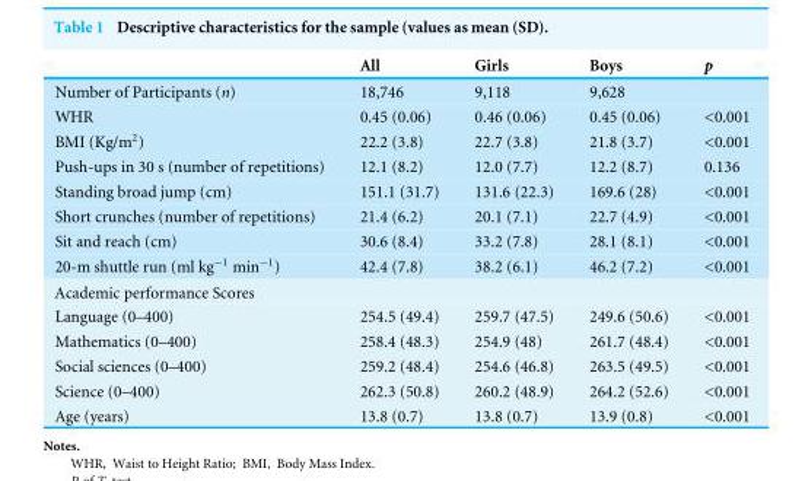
<table><thead><tr><td></td><td>All</td><td>Girls</td><td>Boys</td><td>p</td></tr></thead><tbody><tr><td>Number of Participants (n)</td><td>18,746</td><td>9,118</td><td>9,628</td><td></td></tr><tr><td>WHR</td><td>0.45 (0.06)</td><td>0.46 (0.06)</td><td>0.45 (0.06)</td><td>&lt;0.001</td></tr><tr><td>BMI (Kg/m<sup>2</sup>)</td><td>22.2 (3.8)</td><td>22.7 (3.8)</td><td>21.8 (3.7)</td><td>&lt;0.001</td></tr><tr><td>Push-ups in 30 s (number of repetitions)</td><td>12.1 (8.2)</td><td>12.0 (7.7)</td><td>12.2 (8.7)</td><td>0.136</td></tr><tr><td>Standing broad jump (cm)</td><td>151.1 (31.7)</td><td>131.6 (22.3)</td><td>169.6 (28)</td><td>&lt;0.001</td></tr><tr><td>Short crunches (number of repetitions)</td><td>21.4 (6.2)</td><td>20.1 (7.1)</td><td>22.7 (4.9)</td><td>&lt;0.001</td></tr><tr><td>Sit and reach (cm)</td><td>30.6 (8.4)</td><td>33.2 (7.8)</td><td>28.1 (8.1)</td><td>&lt;0.001</td></tr><tr><td>20-m shuttle run (ml kg<sup>−1</sup> min<sup>−1</sup>)</td><td>42.4 (7.8)</td><td>38.2 (6.1)</td><td>46.2 (7.2)</td><td>&lt;0.001</td></tr><tr><td colspan="5">Academic performance Scores</td></tr><tr><td>Language (0–400)</td><td>254.5 (49.4)</td><td>259.7 (47.5)</td><td>249.6 (50.6)</td><td>&lt;0.001</td></tr><tr><td>Mathematics (0–400)</td><td>258.4 (48.3)</td><td>254.9 (48)</td><td>261.7 (48.4)</td><td>&lt;0.001</td></tr><tr><td>Social sciences (0–400)</td><td>259.2 (48.4)</td><td>254.6 (46.8)</td><td>263.5 (49.5)</td><td>&lt;0.001</td></tr><tr><td>Science (0–400)</td><td>262.3 (50.8)</td><td>260.2 (48.9)</td><td>264.2 (52.6)</td><td>&lt;0.001</td></tr><tr><td>Age (years)</td><td>13.8 (0.7)</td><td>13.8 (0.7)</td><td>13.9 (0.8)</td><td>&lt;0.001</td></tr></tbody></table>